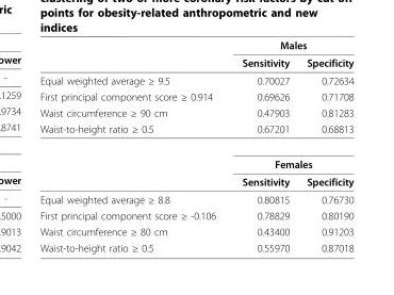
<table><thead><tr><td rowspan="2"></td><td colspan="2">Males</td></tr><tr><td>Sensitivity</td><td>Specificity</td></tr></thead><tbody><tr><td>Equal weighted average ≥ 9.5</td><td>0.70027</td><td>0.72634</td></tr><tr><td>First principal component score ≥ 0.914</td><td>0.69626</td><td>0.71708</td></tr><tr><td>Waist circumference ≥ 90 cm</td><td>0.47903</td><td>0.81283</td></tr><tr><td rowspan="3">Waist-to-height ratio ≥ 0.5</td><td>0.67201</td><td>0.68813</td></tr><tr><td colspan="2">Females</td></tr><tr><td>Sensitivity</td><td>Specificity</td></tr><tr><td>Equal weighted average ≥ 8.8</td><td>0.80815</td><td>0.76730</td></tr><tr><td>First principal component score ≥ -0.106</td><td>0.78829</td><td>0.80190</td></tr><tr><td>Waist circumference ≥ 80 cm</td><td>0.43400</td><td>0.91203</td></tr><tr><td>Waist-to-height ratio ≥ 0.5</td><td>0.55970</td><td>0.87018</td></tr></tbody></table>